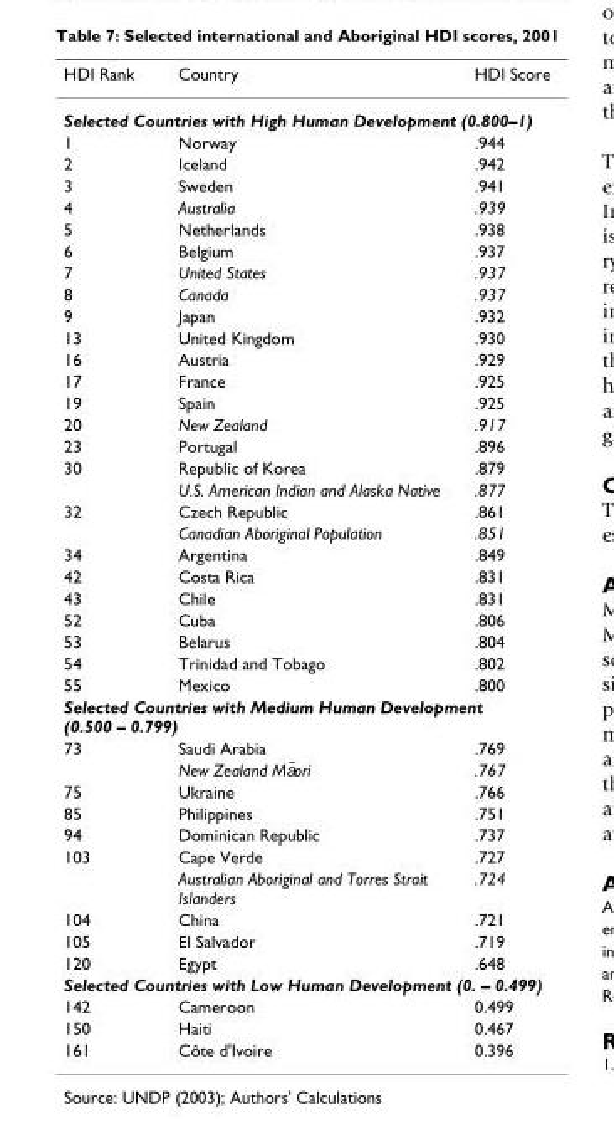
<table><thead><tr><td>HDI Rank</td><td>Country</td><td>HDI Score</td></tr></thead><tbody><tr><td colspan="3">Selected Countries with High Human Development (0.800–1)</td></tr><tr><td>1</td><td>Norway</td><td>.944</td></tr><tr><td>2</td><td>Iceland</td><td>.942</td></tr><tr><td>3</td><td>Sweden</td><td>.941</td></tr><tr><td>4</td><td>Australia</td><td>.939</td></tr><tr><td>5</td><td>Netherlands</td><td>.938</td></tr><tr><td>6</td><td>Belgium</td><td>.937</td></tr><tr><td>7</td><td>United States</td><td>.937</td></tr><tr><td>8</td><td>Canada</td><td>.937</td></tr><tr><td>9</td><td>Japan</td><td>.932</td></tr><tr><td>13</td><td>United Kingdom</td><td>.930</td></tr><tr><td>16</td><td>Austria</td><td>.929</td></tr><tr><td>17</td><td>France</td><td>.925</td></tr><tr><td>19</td><td>Spain</td><td>.925</td></tr><tr><td>20</td><td>New Zealand</td><td>.917</td></tr><tr><td>23</td><td>Portugal</td><td>.896</td></tr><tr><td rowspan="2">30</td><td>Republic of Korea</td><td>.879</td></tr><tr><td>U.S. American Indian and Alaska Native</td><td>.877</td></tr><tr><td rowspan="2">32</td><td>Czech Republic</td><td>.861</td></tr><tr><td>Canadian Aboriginal Population</td><td>.851</td></tr><tr><td>34</td><td>Argentina</td><td>.849</td></tr><tr><td>42</td><td>Costa Rica</td><td>.831</td></tr><tr><td>43</td><td>Chile</td><td>.831</td></tr><tr><td>52</td><td>Cuba</td><td>.806</td></tr><tr><td>53</td><td>Belarus</td><td>.804</td></tr><tr><td>54</td><td>Trinidad and Tobago</td><td>.802</td></tr><tr><td>55</td><td>Mexico</td><td>.800</td></tr><tr><td colspan="3">Selected Countries with Medium Human Development (0.500 – 0.799)</td></tr><tr><td rowspan="2">73</td><td>Saudi Arabia</td><td>.769</td></tr><tr><td>New Zealand Ma¯ori</td><td>.767</td></tr><tr><td>75</td><td>Ukraine</td><td>.766</td></tr><tr><td>85</td><td>Philippines</td><td>.751</td></tr><tr><td>94</td><td>Dominican Republic</td><td>.737</td></tr><tr><td rowspan="2">103</td><td>Cape Verde</td><td>.727</td></tr><tr><td>Australian Aboriginal and Torres Strait Islanders</td><td>.724</td></tr><tr><td>104</td><td>China</td><td>.721</td></tr><tr><td>105</td><td>El Salvador</td><td>.719</td></tr><tr><td>120</td><td>Egypt</td><td>.648</td></tr><tr><td colspan="3">Selected Countries with Low Human Development (0. – 0.499)</td></tr><tr><td>142</td><td>Cameroon</td><td>0.499</td></tr><tr><td>150</td><td>Haiti</td><td>0.467</td></tr><tr><td>161</td><td>Côte d&#x27;Ivoire</td><td>0.396</td></tr></tbody></table>